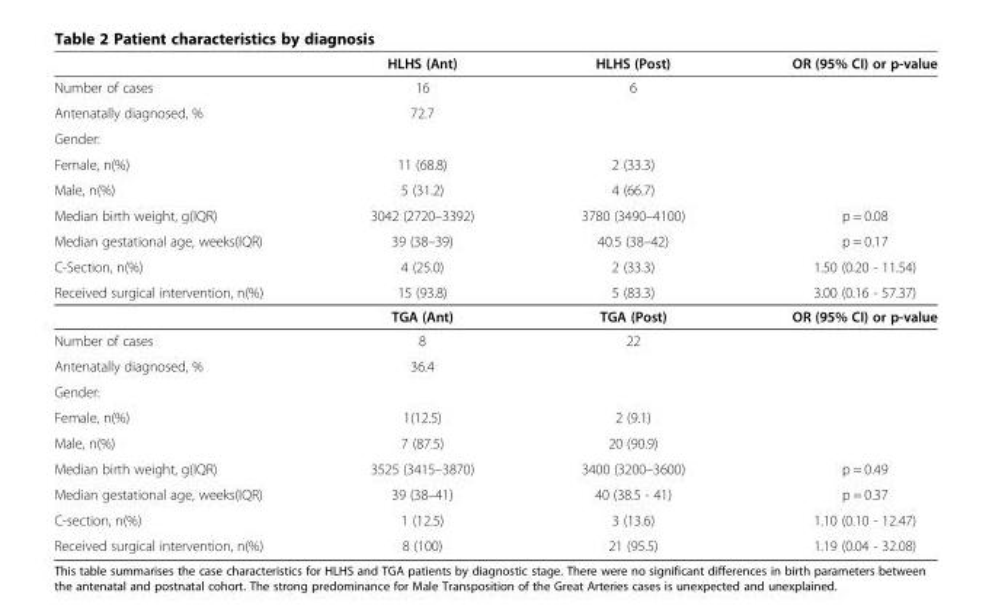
<table><thead><tr><td></td><td>HLHS (Ant)</td><td>HLHS (Post)</td><td>OR (95% CI) or p-value</td></tr></thead><tbody><tr><td>Number of cases</td><td>16</td><td>6</td><td></td></tr><tr><td>Antenatally diagnosed, %</td><td>72.7</td><td></td><td></td></tr><tr><td colspan="4">Gender:</td></tr><tr><td>Female, n(%)</td><td>11 (68.8)</td><td>2 (33.3)</td><td></td></tr><tr><td>Male, n(%)</td><td>5 (31.2)</td><td>4 (66.7)</td><td></td></tr><tr><td>Median birth weight, g(IQR)</td><td>3042 (2720–3392)</td><td>3780 (3490–4100)</td><td>p = 0.08</td></tr><tr><td>Median gestational age, weeks(IQR)</td><td>39 (38–39)</td><td>40.5 (38–42)</td><td>p = 0.17</td></tr><tr><td>C-Section, n(%)</td><td>4 (25.0)</td><td>2 (33.3)</td><td>1.50 (0.20 - 11.54)</td></tr><tr><td rowspan="2">Received surgical intervention, n(%)</td><td>15 (93.8)</td><td>5 (83.3)</td><td>3.00 (0.16 - 57.37)</td></tr><tr><td>TGA (Ant)</td><td>TGA (Post)</td><td>OR (95% CI) or p-value</td></tr><tr><td>Number of cases</td><td>8</td><td>22</td><td></td></tr><tr><td>Antenatally diagnosed, %</td><td>36.4</td><td></td><td></td></tr><tr><td colspan="4">Gender:</td></tr><tr><td>Female, n(%)</td><td>1(12.5)</td><td>2 (9.1)</td><td></td></tr><tr><td>Male, n(%)</td><td>7 (87.5)</td><td>20 (90.9)</td><td></td></tr><tr><td>Median birth weight, g(IQR)</td><td>3525 (3415–3870)</td><td>3400 (3200–3600)</td><td>p = 0.49</td></tr><tr><td>Median gestational age, weeks(IQR)</td><td>39 (38–41)</td><td>40 (38.5 - 41)</td><td>p = 0.37</td></tr><tr><td>C-section, n(%)</td><td>1 (12.5)</td><td>3 (13.6)</td><td>1.10 (0.10 - 12.47)</td></tr><tr><td>Received surgical intervention, n(%)</td><td>8 (100)</td><td>21 (95.5)</td><td>1.19 (0.04 - 32.08)</td></tr></tbody></table>